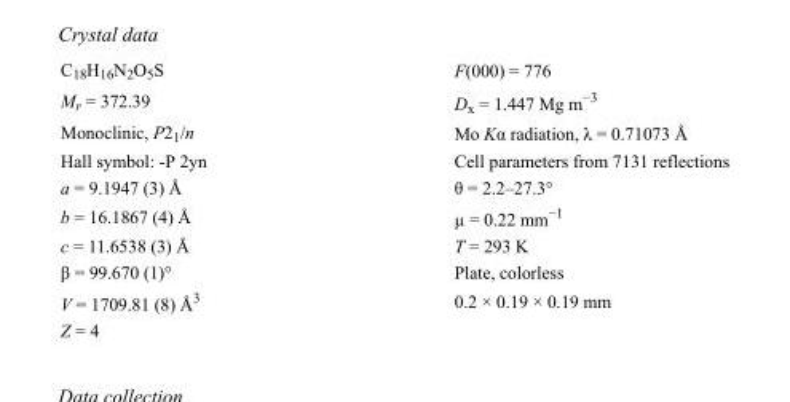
<table><tbody><tr><td>C<sub>18</sub>H<sub>16</sub>N<sub>2</sub>O<sub>5</sub>S</td><td>F(000) = 776</td></tr><tr><td>M<sub>r</sub> = 372.39</td><td>D<sub>x</sub> = 1.447 Mg m<sup>−3</sup></td></tr><tr><td>Monoclinic, P2<sub>1</sub>/n</td><td>Mo Kα radiation, λ = 0.71073 Å</td></tr><tr><td>Hall symbol: -P 2yn</td><td>Cell parameters from 7131 reflections</td></tr><tr><td>a = 9.1947 (3) Å</td><td>θ = 2.2–27.3°</td></tr><tr><td>b = 16.1867 (4) Å</td><td>µ = 0.22 mm<sup>−1</sup></td></tr><tr><td>c = 11.6538 (3) Å</td><td>T = 293 K</td></tr><tr><td>β = 99.670 (1)°</td><td>Plate, colorless</td></tr><tr><td>V = 1709.81 (8) Å<sup>3</sup></td><td>0.2 × 0.19 × 0.19 mm</td></tr><tr><td>Z = 4</td><td></td></tr></tbody></table>